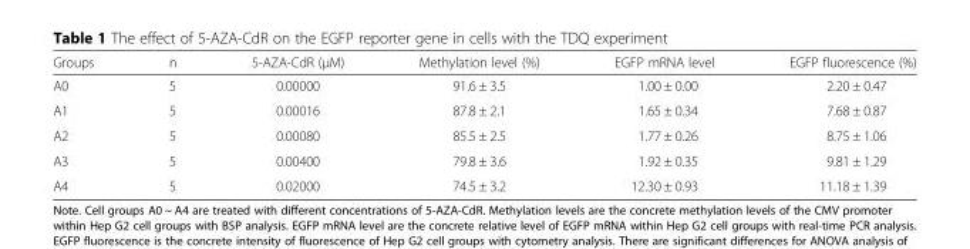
<table><thead><tr><td>Groups</td><td>n</td><td>5-AZA-CdR (μM)</td><td>Methylation level (%)</td><td>EGFP mRNA level</td><td>EGFP fluorescence (%)</td></tr></thead><tbody><tr><td>A0</td><td>5</td><td>0.00000</td><td>91.6 ± 3.5</td><td>1.00 ± 0.00</td><td>2.20 ± 0.47</td></tr><tr><td>A1</td><td>5</td><td>0.00016</td><td>87.8 ± 2.1</td><td>1.65 ± 0.34</td><td>7.68 ± 0.87</td></tr><tr><td>A2</td><td>5</td><td>0.00080</td><td>85.5 ± 2.5</td><td>1.77 ± 0.26</td><td>8.75 ± 1.06</td></tr><tr><td>A3</td><td>5</td><td>0.00400</td><td>79.8 ± 3.6</td><td>1.92 ± 0.35</td><td>9.81 ± 1.29</td></tr><tr><td>A4</td><td>5</td><td>0.02000</td><td>74.5 ± 3.2</td><td>12.30 ± 0.93</td><td>11.18 ± 1.39</td></tr></tbody></table>